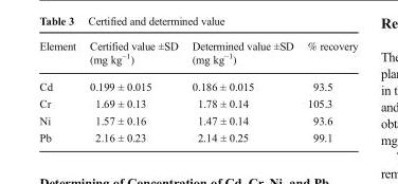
<table><thead><tr><td>Element</td><td>Certified value ±SD (mg kg<sup>−1</sup>)</td><td>Determined value ±SD (mg kg<sup>−1</sup>)</td><td>% recovery</td></tr></thead><tbody><tr><td>Cd</td><td>0.199 ± 0.015</td><td>0.186 ± 0.015</td><td>93.5</td></tr><tr><td>Cr</td><td>1.69 ± 0.13</td><td>1.78 ± 0.14</td><td>105.3</td></tr><tr><td>Ni</td><td>1.57 ± 0.16</td><td>1.47 ± 0.14</td><td>93.6</td></tr><tr><td>Pb</td><td>2.16 ± 0.23</td><td>2.14 ± 0.25</td><td>99.1</td></tr></tbody></table>